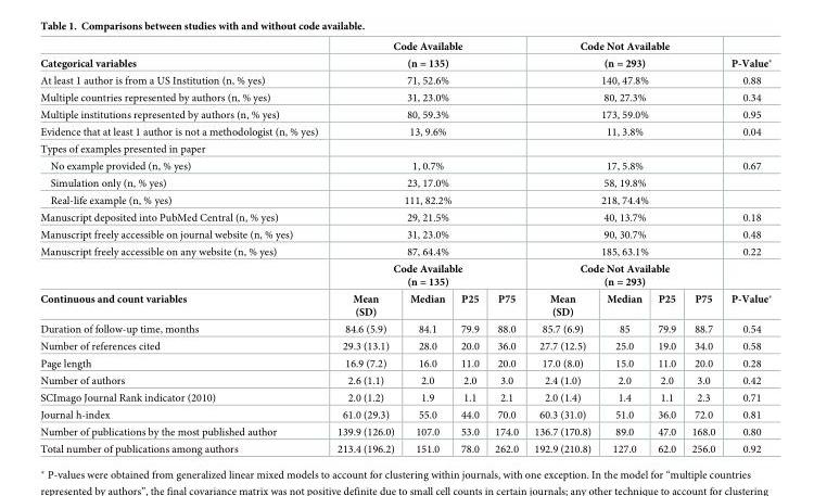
<table><thead><tr><td></td><td colspan="4">Code Available</td><td colspan="4">Code Not Available</td><td></td></tr></thead><tbody><tr><td>Categorical variables</td><td colspan="4">(n = 135)</td><td colspan="4">(n = 293)</td><td>P-Value*</td></tr><tr><td>At least 1 author is from a US Institution (n, % yes)</td><td colspan="4">71, 52.6%</td><td colspan="4">140, 47.8%</td><td>0.88</td></tr><tr><td>Multiple countries represented by authors (n, % yes)</td><td colspan="4">31, 23.0%</td><td colspan="4">80, 27.3%</td><td>0.34</td></tr><tr><td>Multiple institutions represented by authors (n, % yes)</td><td colspan="4">80, 59.3%</td><td colspan="4">173, 59.0%</td><td>0.95</td></tr><tr><td>Evidence that at least 1 author is not a methodologist (n, % yes)</td><td colspan="4">13, 9.6%</td><td colspan="4">11, 3.8%</td><td>0.04</td></tr><tr><td colspan="10">Types of examples presented in paper</td></tr><tr><td>No example provided (n, % yes)</td><td colspan="4">1, 0.7%</td><td colspan="4">17, 5.8%</td><td>0.67</td></tr><tr><td>Simulation only (n, % yes)</td><td colspan="4">23, 17.0%</td><td colspan="4">58, 19.8%</td><td></td></tr><tr><td>Real-life example (n, % yes)</td><td colspan="4">111, 82.2%</td><td colspan="4">218, 74.4%</td><td></td></tr><tr><td>Manuscript deposited into PubMed Central (n, % yes)</td><td colspan="4">29, 21.5%</td><td colspan="4">40, 13.7%</td><td>0.18</td></tr><tr><td>Manuscript freely accessible on journal website (n, % yes)</td><td colspan="4">31, 23.0%</td><td colspan="4">90, 30.7%</td><td>0.48</td></tr><tr><td rowspan="2">Manuscript freely accessible on any website (n, % yes)</td><td colspan="4">87, 64.4%</td><td colspan="4">185, 63.1%</td><td>0.22</td></tr><tr><td colspan="4">Code Available (n = 135)</td><td colspan="4">Code Not Available (n = 293)</td><td></td></tr><tr><td>Continuous and count variables</td><td>Mean (SD)</td><td>Median</td><td>P25</td><td>P75</td><td>Mean (SD)</td><td>Median</td><td>P25</td><td>P75</td><td>P-Value*</td></tr><tr><td>Duration of follow-up time, months</td><td>84.6 (5.9)</td><td>84.1</td><td>79.9</td><td>88.0</td><td>85.7 (6.9)</td><td>85</td><td>79.9</td><td>88.7</td><td>0.54</td></tr><tr><td>Number of references cited</td><td>29.3 (13.1)</td><td>28.0</td><td>20.0</td><td>36.0</td><td>27.7 (12.5)</td><td>25.0</td><td>19.0</td><td>34.0</td><td>0.58</td></tr><tr><td>Page length</td><td>16.9 (7.2)</td><td>16.0</td><td>11.0</td><td>20.0</td><td>17.0 (8.0)</td><td>15.0</td><td>11.0</td><td>20.0</td><td>0.28</td></tr><tr><td>Number of authors</td><td>2.6 (1.1)</td><td>2.0</td><td>2.0</td><td>3.0</td><td>2.4 (1.0)</td><td>2.0</td><td>2.0</td><td>3.0</td><td>0.42</td></tr><tr><td>SCImago Journal Rank indicator (2010)</td><td>2.0 (1.2)</td><td>1.9</td><td>1.1</td><td>2.1</td><td>2.0 (1.4)</td><td>1.4</td><td>1.1</td><td>2.3</td><td>0.71</td></tr><tr><td>Journal h-index</td><td>61.0 (29.3)</td><td>55.0</td><td>44.0</td><td>70.0</td><td>60.3 (31.0)</td><td>51.0</td><td>36.0</td><td>72.0</td><td>0.81</td></tr><tr><td>Number of publications by the most published author</td><td>139.9 (126.0)</td><td>107.0</td><td>53.0</td><td>174.0</td><td>136.7 (170.8)</td><td>89.0</td><td>47.0</td><td>168.0</td><td>0.80</td></tr><tr><td>Total number of publications among authors</td><td>213.4 (196.2)</td><td>151.0</td><td>78.0</td><td>262.0</td><td>192.9 (210.8)</td><td>127.0</td><td>62.0</td><td>256.0</td><td>0.92</td></tr></tbody></table>